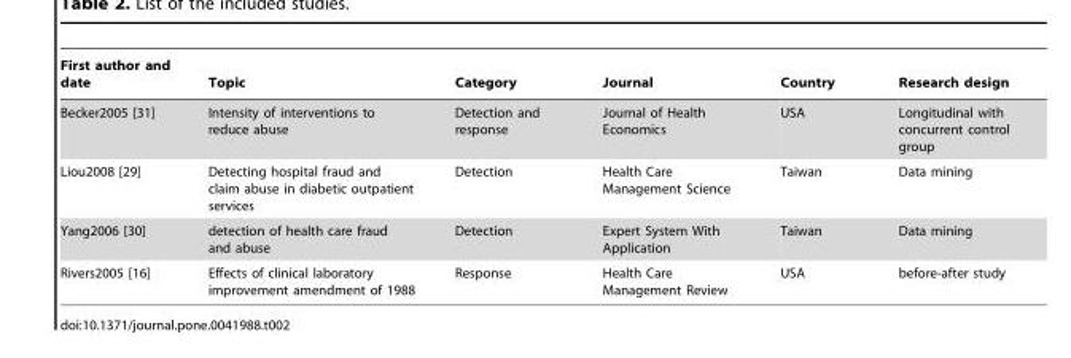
<table><thead><tr><td>First author and date</td><td>Topic</td><td>Category</td><td>Journal</td><td>Country</td><td>Research design</td></tr></thead><tbody><tr><td>Becker2005 [31]</td><td>Intensity of interventions to reduce abuse</td><td>Detection and response</td><td>Journal of Health Economics</td><td>USA</td><td>Longitudinal with concurrent control group</td></tr><tr><td>Liou2008 [29]</td><td>Detecting hospital fraud and claim abuse in diabetic outpatient services</td><td>Detection</td><td>Health Care Management Science</td><td>Taiwan</td><td>Data mining</td></tr><tr><td>Yang2006 [30]</td><td>detection of health care fraud and abuse</td><td>Detection</td><td>Expert System With Application</td><td>Taiwan</td><td>Data mining</td></tr><tr><td>Rivers2005 [16]</td><td>Effects of clinical laboratory improvement amendment of 1988</td><td>Response</td><td>Health Care Management Review</td><td>USA</td><td>before-after study</td></tr></tbody></table>